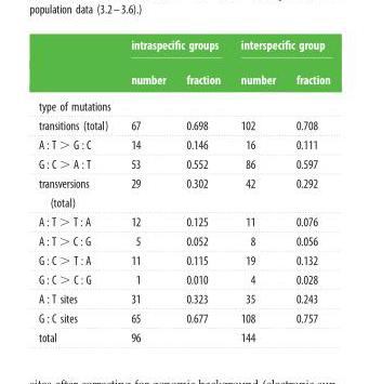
<table><thead><tr><td rowspan="2"></td><td colspan="2">intraspecific groups</td><td colspan="2">interspecific group</td></tr><tr><td>number</td><td>fraction</td><td>number</td><td>fraction</td></tr></thead><tbody><tr><td colspan="5">type of mutations</td></tr><tr><td>transitions (total)</td><td>67</td><td>0.698</td><td>102</td><td>0.708</td></tr><tr><td>A : T &gt; G : C</td><td>14</td><td>0.146</td><td>16</td><td>0.111</td></tr><tr><td>G : C &gt; A : T</td><td>53</td><td>0.552</td><td>86</td><td>0.597</td></tr><tr><td>transversions (total)</td><td>29</td><td>0.302</td><td>42</td><td>0.292</td></tr><tr><td>A : T &gt; T : A</td><td>12</td><td>0.125</td><td>11</td><td>0.076</td></tr><tr><td>A : T &gt; C : G</td><td>5</td><td>0.052</td><td>8</td><td>0.056</td></tr><tr><td>G : C &gt; T : A</td><td>11</td><td>0.115</td><td>19</td><td>0.132</td></tr><tr><td>G : C &gt; C : G</td><td>1</td><td>0.010</td><td>4</td><td>0.028</td></tr><tr><td>A : T sites</td><td>31</td><td>0.323</td><td>35</td><td>0.243</td></tr><tr><td>G : C sites</td><td>65</td><td>0.677</td><td>108</td><td>0.757</td></tr><tr><td>total</td><td>96</td><td></td><td>144</td><td></td></tr></tbody></table>